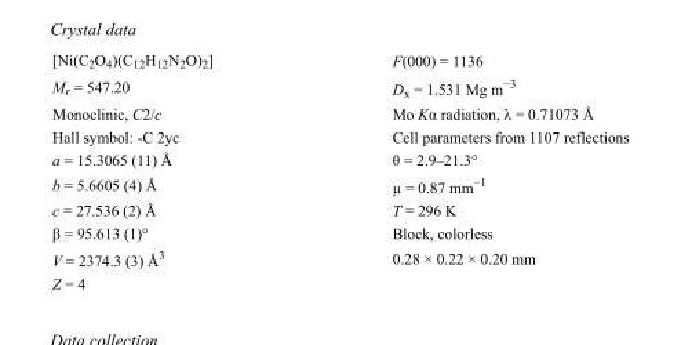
<table><tbody><tr><td>[Ni(C<sub>2</sub>O<sub>4</sub>)(C<sub>12</sub>H<sub>12</sub>N<sub>2</sub>O)<sub>2</sub>]</td><td>F(000) = 1136</td></tr><tr><td>M<sub>r</sub> = 547.20</td><td>D<sub>x</sub> = 1.531 Mg m<sup>−3</sup></td></tr><tr><td>Monoclinic, C2/c</td><td>Mo Kα radiation, λ = 0.71073 Å</td></tr><tr><td>Hall symbol: -C 2yc</td><td>Cell parameters from 1107 reflections</td></tr><tr><td>a = 15.3065 (11) Å</td><td>θ = 2.9–21.3°</td></tr><tr><td>b = 5.6605 (4) Å</td><td>µ = 0.87 mm<sup>−1</sup></td></tr><tr><td>c = 27.536 (2) Å</td><td>T = 296 K</td></tr><tr><td>β = 95.613 (1)°</td><td>Block, colorless</td></tr><tr><td>V = 2374.3 (3) Å<sup>3</sup></td><td>0.28 × 0.22 × 0.20 mm</td></tr><tr><td>Z = 4</td><td></td></tr></tbody></table>